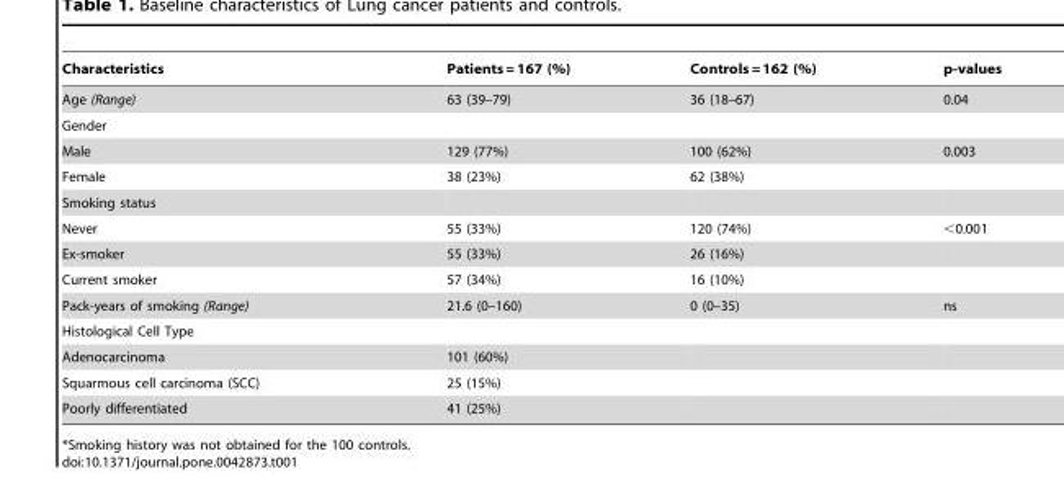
<table><thead><tr><td>Characteristics</td><td>Patients = 167 (%)</td><td>Controls = 162 (%)</td><td>p-values</td></tr></thead><tbody><tr><td>Age (Range)</td><td>63 (39–79)</td><td>36 (18–67)</td><td>0.04</td></tr><tr><td colspan="4">Gender</td></tr><tr><td>Male</td><td>129 (77%)</td><td>100 (62%)</td><td>0.003</td></tr><tr><td>Female</td><td>38 (23%)</td><td>62 (38%)</td><td></td></tr><tr><td colspan="4">Smoking status</td></tr><tr><td>Never</td><td>55 (33%)</td><td>120 (74%)</td><td>&lt;0.001</td></tr><tr><td>Ex-smoker</td><td>55 (33%)</td><td>26 (16%)</td><td></td></tr><tr><td>Current smoker</td><td>57 (34%)</td><td>16 (10%)</td><td></td></tr><tr><td>Pack-years of smoking (Range)</td><td>21.6 (0–160)</td><td>0 (0–35)</td><td>ns</td></tr><tr><td colspan="4">Histological Cell Type</td></tr><tr><td>Adenocarcinoma</td><td>101 (60%)</td><td></td><td></td></tr><tr><td>Squarmous cell carcinoma (SCC)</td><td>25 (15%)</td><td></td><td></td></tr><tr><td>Poorly differentiated</td><td>41 (25%)</td><td></td><td></td></tr></tbody></table>